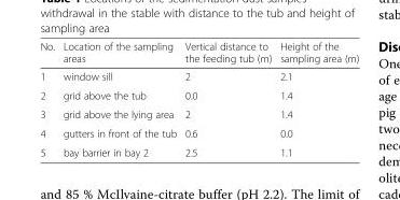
<table><thead><tr><td>No.</td><td>Location of the sampling areas</td><td>Vertical distance to the feeding tub (m)</td><td>Height of the sampling area (m)</td></tr></thead><tbody><tr><td>1</td><td>window sill</td><td>2</td><td>2.1</td></tr><tr><td>2</td><td>grid above the tub</td><td>0.0</td><td>1.4</td></tr><tr><td>3</td><td>grid above the lying area</td><td>2</td><td>1.4</td></tr><tr><td>4</td><td>gutters in front of the tub</td><td>0.6</td><td>0.0</td></tr><tr><td>5</td><td>bay barrier in bay 2</td><td>2.5</td><td>1.1</td></tr></tbody></table>